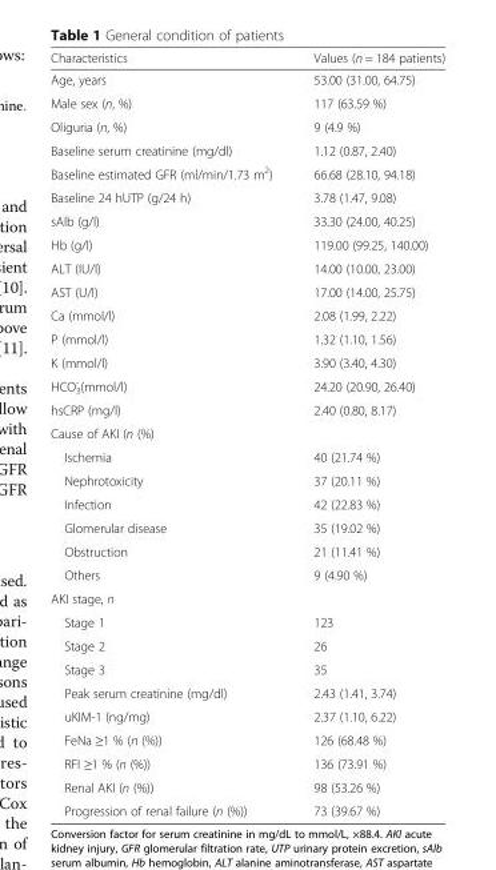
<table><thead><tr><td>Characteristics</td><td>Values (n = 184 patients)</td></tr></thead><tbody><tr><td>Age, years</td><td>53.00 (31.00, 64.75)</td></tr><tr><td>Male sex (n, %)</td><td>117 (63.59 %)</td></tr><tr><td>Oliguria (n, %)</td><td>9 (4.9 %)</td></tr><tr><td>Baseline serum creatinine (mg/dl)</td><td>1.12 (0.87, 2.40)</td></tr><tr><td>Baseline estimated GFR (ml/min/1.73 m<sup>2</sup>)</td><td>66.68 (28.10, 94.18)</td></tr><tr><td>Baseline 24 hUTP (g/24 h)</td><td>3.78 (1.47, 9.08)</td></tr><tr><td>sAlb (g/l)</td><td>33.30 (24.00, 40.25)</td></tr><tr><td>Hb (g/l)</td><td>119.00 (99.25, 140.00)</td></tr><tr><td>ALT (IU/l)</td><td>14.00 (10.00, 23.00)</td></tr><tr><td>AST (U/l)</td><td>17.00 (14.00, 25.75)</td></tr><tr><td>Ca (mmol/l)</td><td>2.08 (1.99, 2.22)</td></tr><tr><td>P (mmol/l)</td><td>1.32 (1.10, 1.56)</td></tr><tr><td>K (mmol/l)</td><td>3.90 (3.40, 4.30)</td></tr><tr><td>HCO<sub>3</sub> <sup>-</sup>(mmol/l)</td><td>24.20 (20.90, 26.40)</td></tr><tr><td>hsCRP (mg/l)</td><td>2.40 (0.80, 8.17)</td></tr><tr><td colspan="2">Cause of AKI (n (%)</td></tr><tr><td>Ischemia</td><td>40 (21.74 %)</td></tr><tr><td>Nephrotoxicity</td><td>37 (20.11 %)</td></tr><tr><td>Infection</td><td>42 (22.83 %)</td></tr><tr><td>Glomerular disease</td><td>35 (19.02 %)</td></tr><tr><td>Obstruction</td><td>21 (11.41 %)</td></tr><tr><td>Others</td><td>9 (4.90 %)</td></tr><tr><td colspan="2">AKI stage, n</td></tr><tr><td>Stage 1</td><td>123</td></tr><tr><td>Stage 2</td><td>26</td></tr><tr><td>Stage 3</td><td>35</td></tr><tr><td>Peak serum creatinine (mg/dl)</td><td>2.43 (1.41, 3.74)</td></tr><tr><td>uKIM-1 (ng/mg)</td><td>2.37 (1.10, 6.22)</td></tr><tr><td>FeNa ≥1 % (n (%))</td><td>126 (68.48 %)</td></tr><tr><td>RFI ≥1 % (n (%))</td><td>136 (73.91 %)</td></tr><tr><td>Renal AKI (n (%))</td><td>98 (53.26 %)</td></tr><tr><td>Progression of renal failure (n (%))</td><td>73 (39.67 %)</td></tr></tbody></table>